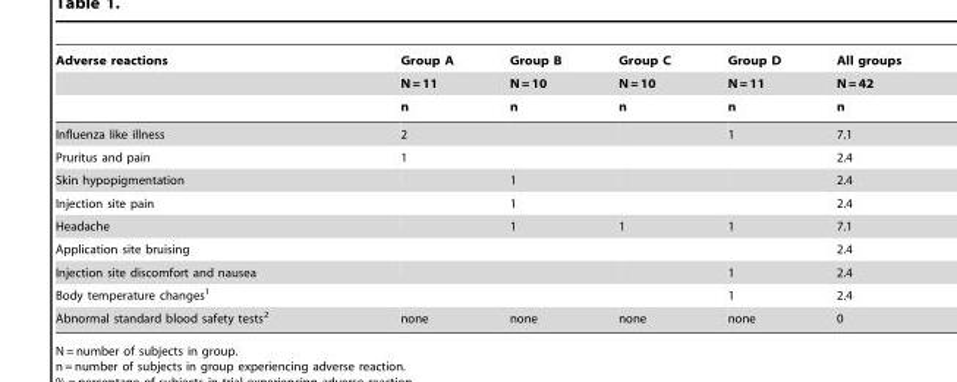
<table><thead><tr><td rowspan="3">Adverse reactions</td><td rowspan="3">Group A N = 11 n</td><td rowspan="3">Group B N = 10 n</td><td rowspan="3">Group C N = 10 n</td><td rowspan="3">Group D N = 11 n</td><td rowspan="3">All groups N = 42 n</td></tr><tr></tr><tr></tr></thead><tbody><tr><td>Influenza like illness</td><td>2</td><td></td><td></td><td>1</td><td>7.1</td></tr><tr><td>Pruritus and pain</td><td>1</td><td></td><td></td><td></td><td>2.4</td></tr><tr><td>Skin hypopigmentation</td><td></td><td>1</td><td></td><td></td><td>2.4</td></tr><tr><td>Injection site pain</td><td></td><td>1</td><td></td><td></td><td>2.4</td></tr><tr><td>Headache</td><td></td><td>1</td><td>1</td><td>1</td><td>7.1</td></tr><tr><td>Application site bruising</td><td></td><td></td><td></td><td></td><td>2.4</td></tr><tr><td>Injection site discomfort and nausea</td><td></td><td></td><td></td><td>1</td><td>2.4</td></tr><tr><td>Body temperature changes<sup>1</sup></td><td></td><td></td><td></td><td>1</td><td>2.4</td></tr><tr><td>Abnormal standard blood safety tests<sup>2</sup></td><td>none</td><td>none</td><td>none</td><td>none</td><td>0</td></tr></tbody></table>